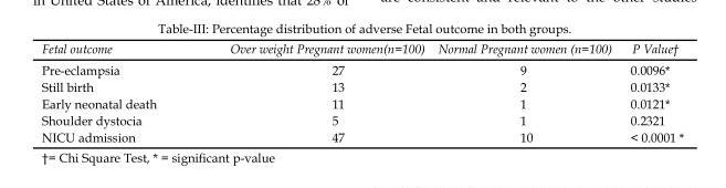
<table><thead><tr><td>Fetal outcome</td><td>Over weight Pregnant women(n=100)</td><td>Normal Pregnant women (n=100)</td><td>P Value†</td></tr></thead><tbody><tr><td>Pre-eclampsia</td><td>27</td><td>9</td><td>0.0096*</td></tr><tr><td>Still birth</td><td>13</td><td>2</td><td>0.0133*</td></tr><tr><td>Early neonatal death</td><td>11</td><td>1</td><td>0.0121*</td></tr><tr><td>Shoulder dystocia</td><td>5</td><td>1</td><td>0.2321</td></tr><tr><td>NICU admission</td><td>47</td><td>10</td><td>&lt; 0.0001 *</td></tr></tbody></table>